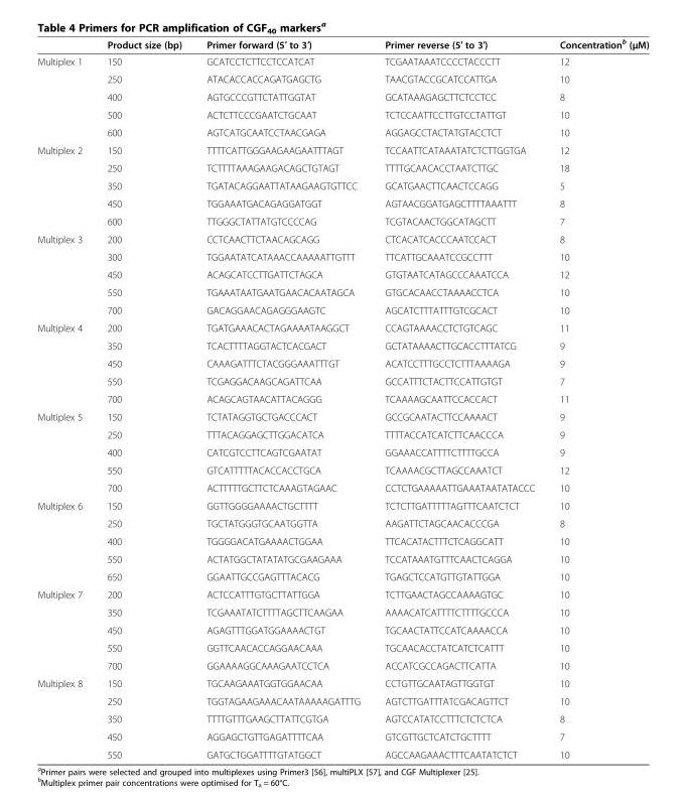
<table><thead><tr><td></td><td>Product size (bp)</td><td>Primer forward (5′ to 3′)</td><td>Primer reverse (5′ to 3′)</td><td>Concentration<sup>b</sup> (μM)</td></tr></thead><tbody><tr><td rowspan="5">Multiplex 1</td><td>150</td><td>GCATCCTCTTCCTCCATCAT</td><td>TCGAATAAATCCCCTACCCTT</td><td>12</td></tr><tr><td>250</td><td>ATACACCACCAGATGAGCTG</td><td>TAACGTACCGCATCCATTGA</td><td>10</td></tr><tr><td>400</td><td>AGTGCCCGTTCTATTGGTAT</td><td>GCATAAAGAGCTTCTCCTCC</td><td>8</td></tr><tr><td>500</td><td>ACTCTTCCCGAATCTGCAAT</td><td>TCTCCAATTCCTTGTCCTATTGT</td><td>10</td></tr><tr><td>600</td><td>AGTCATGCAATCCTAACGAGA</td><td>AGGAGCCTACTATGTACCTCT</td><td>10</td></tr><tr><td rowspan="5">Multiplex 2</td><td>150</td><td>TTTTCATTGGGAAGAAGAATTTAGT</td><td>TCCAATTCATAAATATCTCTTGGTGA</td><td>12</td></tr><tr><td>250</td><td>TCTTTTAAAGAAGACAGCTGTAGT</td><td>TTTTGCAACACCTAATCTTGC</td><td>18</td></tr><tr><td>350</td><td>TGATACAGGAATTATAAGAAGTGTTCC</td><td>GCATGAACTTCAACTCCAGG</td><td>5</td></tr><tr><td>450</td><td>TGGAAATGACAGAGGATGGT</td><td>AGTAACGGATGAGCTTTTAAATTT</td><td>8</td></tr><tr><td>600</td><td>TTGGGCTATTATGTCCCCAG</td><td>TCGTACAACTGGCATAGCTT</td><td>7</td></tr><tr><td rowspan="5">Multiplex 3</td><td>200</td><td>CCTCAACTTCTAACAGCAGG</td><td>CTCACATCACCCAATCCACT</td><td>8</td></tr><tr><td>300</td><td>TGGAATATCATAAACCAAAAATTGTTT</td><td>TTCATTGCAAATCCGCCTTT</td><td>10</td></tr><tr><td>450</td><td>ACAGCATCCTTGATTCTAGCA</td><td>GTGTAATCATAGCCCAAATCCA</td><td>12</td></tr><tr><td>550</td><td>TGAAATAATGAATGAACACAATAGCA</td><td>GTGCACAACCTAAAACCTCA</td><td>10</td></tr><tr><td>700</td><td>GACAGGAACAGAGGGAAGTC</td><td>AGCATCTTTATTTGTCGCACT</td><td>10</td></tr><tr><td rowspan="5">Multiplex 4</td><td>200</td><td>TGATGAAACACTAGAAAATAAGGCT</td><td>CCAGTAAAACCTCTGTCAGC</td><td>11</td></tr><tr><td>350</td><td>TCACTTTTAGGTACTCACGACT</td><td>GCTATAAAACTTGCACCTTTATCG</td><td>9</td></tr><tr><td>450</td><td>CAAAGATTTCTACGGGAAATTTGT</td><td>ACATCCTTTGCCTCTTTAAAAGA</td><td>9</td></tr><tr><td>550</td><td>TCGAGGACAAGCAGATTCAA</td><td>GCCATTTCTACTTCCATTGTGT</td><td>7</td></tr><tr><td>700</td><td>ACAGCAGTAACATTACAGGG</td><td>TCAAAAGCAATTCCACCACT</td><td>11</td></tr><tr><td rowspan="5">Multiplex 5</td><td>150</td><td>TCTATAGGTGCTGACCCACT</td><td>GCCGCAATACTTCCAAAACT</td><td>9</td></tr><tr><td>250</td><td>TTTACAGGAGCTTGGACATCA</td><td>TTTTACCATCATCTTCAACCCA</td><td>9</td></tr><tr><td>400</td><td>CATCGTCCTTCAGTCGAATAT</td><td>GGAAACCATTTTCTTTTGCCA</td><td>9</td></tr><tr><td>550</td><td>GTCATTTTTACACCACCTGCA</td><td>TCAAAACGCTTAGCCAAATCT</td><td>12</td></tr><tr><td>700</td><td>ACTTTTTGCTTCTCAAAGTAGAAC</td><td>CCTCTGAAAAATTGAAATAATATACCC</td><td>10</td></tr><tr><td rowspan="5">Multiplex 6</td><td>150</td><td>GGTTGGGGAAAACTGCTTTT</td><td>TCTCTTGATTTTTAGTTTCAATCTCT</td><td>10</td></tr><tr><td>250</td><td>TGCTATGGGTGCAATGGTTA</td><td>AAGATTCTAGCAACACCCGA</td><td>8</td></tr><tr><td>400</td><td>TGGGGACATGAAAACTGGAA</td><td>TTCACATACTTTCTCAGGCATT</td><td>10</td></tr><tr><td>550</td><td>ACTATGGCTATATATGCGAAGAAA</td><td>TCCATAAATGTTTCAACTCAGGA</td><td>10</td></tr><tr><td>650</td><td>GGAATTGCCGAGTTTACACG</td><td>TGAGCTCCATGTTGTATTGGA</td><td>10</td></tr><tr><td rowspan="5">Multiplex 7</td><td>200</td><td>ACTCCATTTGTGCTTATTGGA</td><td>TCTTGAACTAGCCAAAAGTGC</td><td>10</td></tr><tr><td>350</td><td>TCGAAATATCTTTTAGCTTCAAGAA</td><td>AAAACATCATTTTCTTTTGCCCA</td><td>10</td></tr><tr><td>450</td><td>AGAGTTTGGATGGAAAACTGT</td><td>TGCAACTATTCCATCAAAACCA</td><td>10</td></tr><tr><td>550</td><td>GGTTCAACACCAGGAACAAA</td><td>TGCAACACCTATCATCTCATTT</td><td>10</td></tr><tr><td>700</td><td>GGAAAAGGCAAAGAATCCTCA</td><td>ACCATCGCCAGACTTCATTA</td><td>10</td></tr><tr><td rowspan="5">Multiplex 8</td><td>150</td><td>TGCAAGAAATGGTGGAACAA</td><td>CCTGTTGCAATAGTTGGTGT</td><td>10</td></tr><tr><td>250</td><td>TGGTAGAAGAAACAATAAAAAGATTTG</td><td>AGTCTTGATTTATCGACAGTTCT</td><td>10</td></tr><tr><td>350</td><td>TTTTGTTTGAAGCTTATTCGTGA</td><td>AGTCCATATCCTTTCTCTCTCA</td><td>8</td></tr><tr><td>450</td><td>AGGAGCTGTTGAGATTTTCAA</td><td>GTCGTTGCTCATCTGCTTTT</td><td>7</td></tr><tr><td>550</td><td>GATGCTGGATTTTGTATGGCT</td><td>AGCCAAGAAACTTTCAATATCTCT</td><td>10</td></tr></tbody></table>